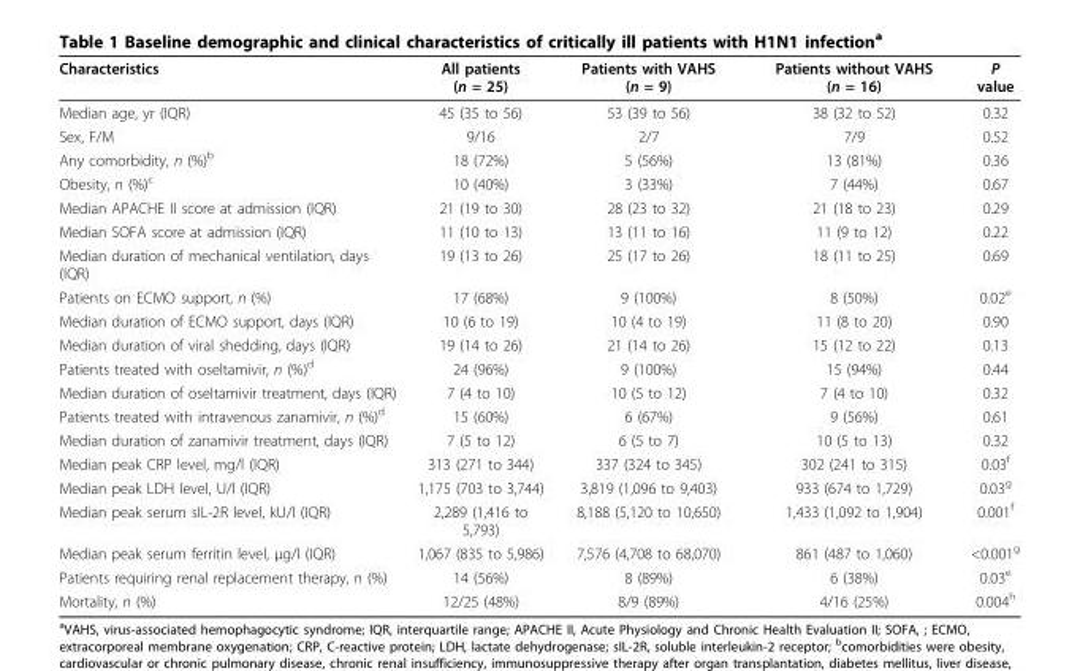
<table><thead><tr><td>Characteristics</td><td>All patients (n = 25)</td><td>Patients with VAHS (n = 9)</td><td>Patients without VAHS (n = 16)</td><td>P value</td></tr></thead><tbody><tr><td>Median age, yr (IQR)</td><td>45 (35 to 56)</td><td>53 (39 to 56)</td><td>38 (32 to 52)</td><td>0.32</td></tr><tr><td>Sex, F/M</td><td>9/16</td><td>2/7</td><td>7/9</td><td>0.52</td></tr><tr><td>Any comorbidity, n (%)<sup>b</sup></td><td>18 (72%)</td><td>5 (56%)</td><td>13 (81%)</td><td>0.36</td></tr><tr><td>Obesity, n (%)<sup>c</sup></td><td>10 (40%)</td><td>3 (33%)</td><td>7 (44%)</td><td>0.67</td></tr><tr><td>Median APACHE II score at admission (IQR)</td><td>21 (19 to 30)</td><td>28 (23 to 32)</td><td>21 (18 to 23)</td><td>0.29</td></tr><tr><td>Median SOFA score at admission (IQR)</td><td>11 (10 to 13)</td><td>13 (11 to 16)</td><td>11 (9 to 12)</td><td>0.22</td></tr><tr><td>Median duration of mechanical ventilation, days (IQR)</td><td>19 (13 to 26)</td><td>25 (17 to 26)</td><td>18 (11 to 25)</td><td>0.69</td></tr><tr><td>Patients on ECMO support, n (%)</td><td>17 (68%)</td><td>9 (100%)</td><td>8 (50%)</td><td>0.02<sup>e</sup></td></tr><tr><td>Median duration of ECMO support, days (IQR)</td><td>10 (6 to 19)</td><td>10 (4 to 19)</td><td>11 (8 to 20)</td><td>0.90</td></tr><tr><td>Median duration of viral shedding, days (IQR)</td><td>19 (14 to 26)</td><td>21 (14 to 26)</td><td>15 (12 to 22)</td><td>0.13</td></tr><tr><td>Patients treated with oseltamivir, n (%)<sup>d</sup></td><td>24 (96%)</td><td>9 (100%)</td><td>15 (94%)</td><td>0.44</td></tr><tr><td>Median duration of oseltamivir treatment, days (IQR)</td><td>7 (4 to 10)</td><td>10 (5 to 12)</td><td>7 (4 to 10)</td><td>0.32</td></tr><tr><td>Patients treated with intravenous zanamivir, n (%)<sup>d</sup></td><td>15 (60%)</td><td>6 (67%)</td><td>9 (56%)</td><td>0.61</td></tr><tr><td>Median duration of zanamivir treatment, days (IQR)</td><td>7 (5 to 12)</td><td>6 (5 to 7)</td><td>10 (5 to 13)</td><td>0.32</td></tr><tr><td>Median peak CRP level, mg/l (IQR)</td><td>313 (271 to 344)</td><td>337 (324 to 345)</td><td>302 (241 to 315)</td><td>0.03<sup>f</sup></td></tr><tr><td>Median peak LDH level, U/l (IQR)</td><td>1,175 (703 to 3,744)</td><td>3,819 (1,096 to 9,403)</td><td>933 (674 to 1,729)</td><td>0.03<sup>g</sup></td></tr><tr><td>Median peak serum sIL-2R level, kU/l (IQR)</td><td>2,289 (1,416 to 5,793)</td><td>8,188 (5,120 to 10,650)</td><td>1,433 (1,092 to 1,904)</td><td>0.001<sup>f</sup></td></tr><tr><td>Median peak serum ferritin level, μg/l (IQR)</td><td>1,067 (835 to 5,986)</td><td>7,576 (4,708 to 68,070)</td><td>861 (487 to 1,060)</td><td>&lt;0.001<sup>g</sup></td></tr><tr><td>Patients requiring renal replacement therapy, n (%)</td><td>14 (56%)</td><td>8 (89%)</td><td>6 (38%)</td><td>0.03<sup>e</sup></td></tr><tr><td>Mortality, n (%)</td><td>12/25 (48%)</td><td>8/9 (89%)</td><td>4/16 (25%)</td><td>0.004<sup>h</sup></td></tr></tbody></table>